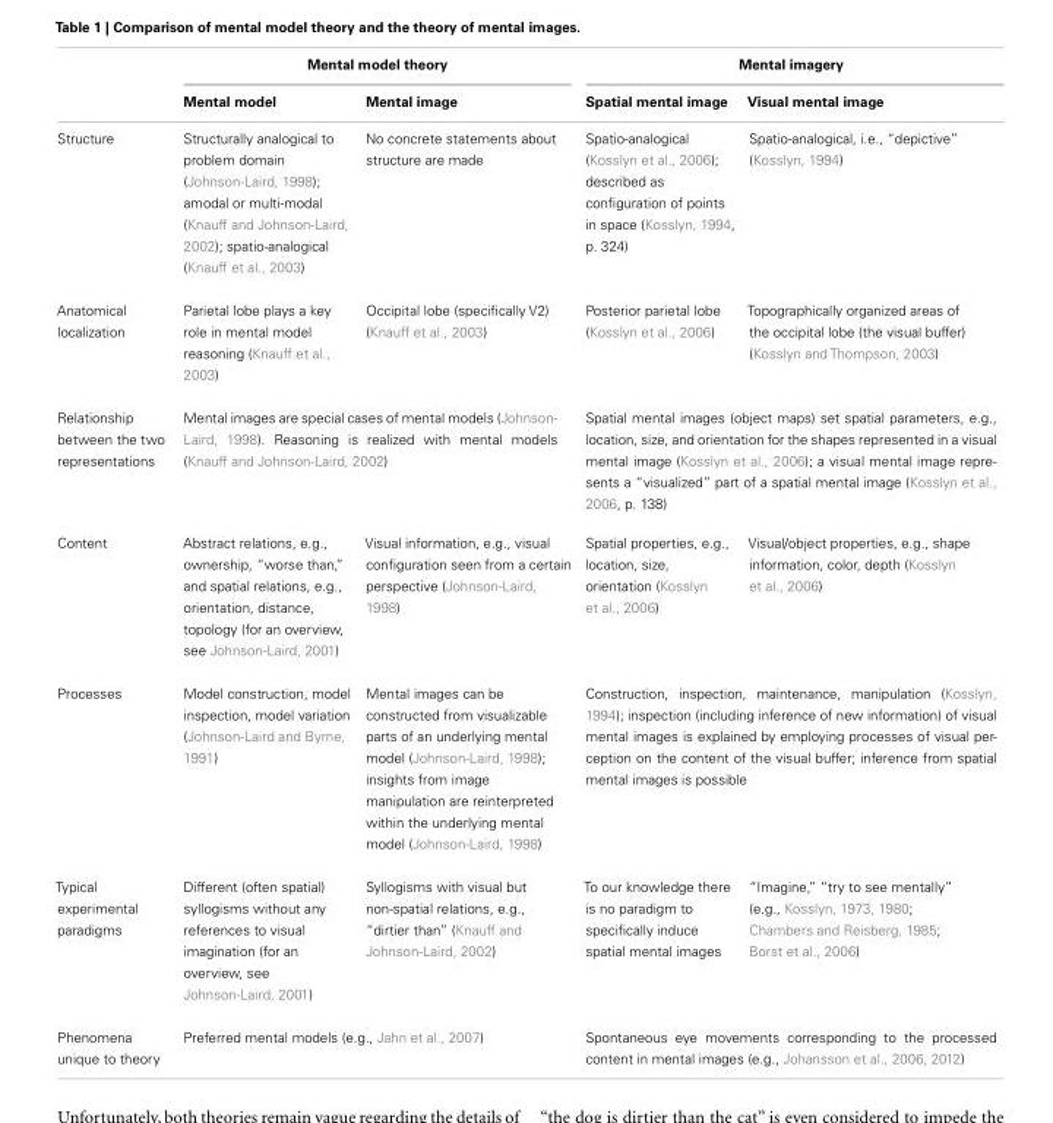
<table><thead><tr><td rowspan="2"></td><td colspan="2">Mental model theory</td><td colspan="2">Mental imagery</td></tr><tr><td>Mental model</td><td>Mental image</td><td>Spatial mental image</td><td>Visual mental image</td></tr></thead><tbody><tr><td>Structure</td><td>Structurally analogical to problem domain (Johnson-Laird, 1998); amodal or multi-modal (Knauff and Johnson-Laird, 2002); spatio-analogical (Knauff et al., 2003)</td><td>No concrete statements about structure are made</td><td>Spatio-analogical (Kosslyn et al., 2006); described as configuration of points in space (Kosslyn, 1994, p. 324)</td><td>Spatio-analogical, i.e., “depictive” (Kosslyn, 1994)</td></tr><tr><td>Anatomical localization</td><td>Parietal lobe plays a key role in mental model reasoning (Knauff et al., 2003)</td><td>Occipital lobe (specifically V2) (Knauff et al., 2003)</td><td>Posterior parietal lobe (Kosslyn et al., 2006)</td><td>Topographically organized areas of the occipital lobe (the visual buffer) (Kosslyn and Thompson, 2003)</td></tr><tr><td>Relationship between the two representations</td><td colspan="2">Mental images are special cases of mental models (Johnson- Laird, 1998). Reasoning is realized with mental models (Knauff and Johnson-Laird, 2002)</td><td colspan="2">Spatial mental images (object maps) set spatial parameters, e.g., location, size, and orientation for the shapes represented in a visual mental image (Kosslyn et al., 2006); a visual mental image repre- sents a “visualized” part of a spatial mental image (Kosslyn et al., 2006, p. 138)</td></tr><tr><td>Content</td><td>Abstract relations, e.g., ownership, “worse than,” and spatial relations, e.g., orientation, distance, topology (for an overview, see Johnson-Laird, 2001)</td><td>Visual information, e.g., visual configuration seen from a certain perspective (Johnson-Laird, 1998)</td><td>Spatial properties, e.g., location, size, orientation (Kosslyn et al., 2006)</td><td>Visual/object properties, e.g., shape information, color, depth (Kosslyn et al., 2006)</td></tr><tr><td>Processes</td><td>Model construction, model inspection, model variation (Johnson-Laird and Byrne, 1991)</td><td>Mental images can be constructed from visualizable parts of an underlying mental model (Johnson-Laird, 1998); insights from image manipulation are reinterpreted within the underlying mental model (Johnson-Laird, 1998)</td><td colspan="2">Construction, inspection, maintenance, manipulation (Kosslyn, 1994); inspection (including inference of new information) of visual mental images is explained by employing processes of visual per- ception on the content of the visual buffer; inference from spatial mental images is possible</td></tr><tr><td>Typical experimental paradigms</td><td>Different (often spatial) syllogisms without any references to visual imagination (for an overview, see Johnson-Laird, 2001)</td><td>Syllogisms with visual but non-spatial relations, e.g., “dirtier than” (Knauff and Johnson-Laird, 2002)</td><td>To our knowledge there is no paradigm to specifically induce spatial mental images</td><td>“Imagine,” “try to see mentally” (e.g., Kosslyn, 1973, 1980; Chambers and Reisberg, 1985; Borst et al., 2006)</td></tr><tr><td>Phenomena unique to theory</td><td colspan="2">Preferred mental models (e.g., Jahn et al., 2007)</td><td colspan="2">Spontaneous eye movements corresponding to the processed content in mental images (e.g., Johansson et al., 2006, 2012)</td></tr></tbody></table>